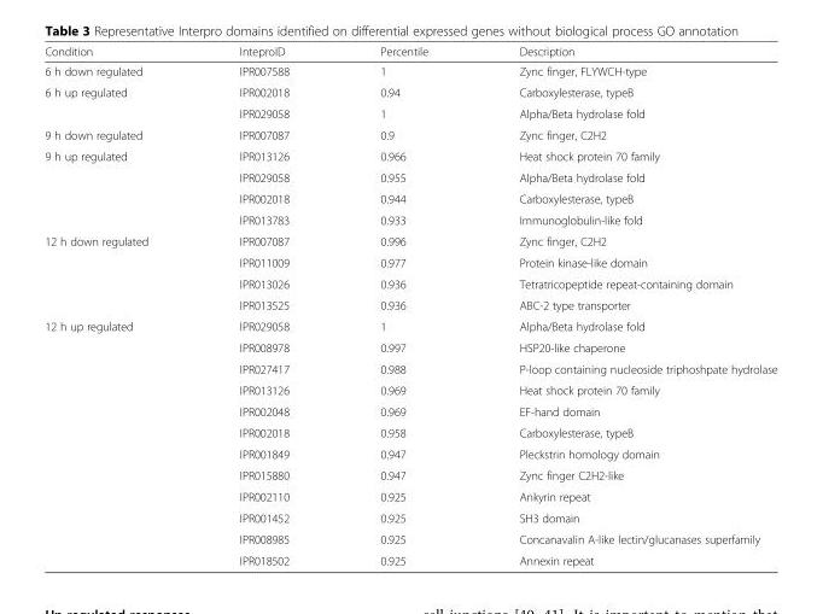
<table><thead><tr><td>Condition</td><td>InteproID</td><td>Percentile</td><td>Description</td></tr></thead><tbody><tr><td>6 h down regulated</td><td>IPR007588</td><td>1</td><td>Zync finger, FLYWCH-type</td></tr><tr><td rowspan="2">6 h up regulated</td><td>IPR002018</td><td>0.94</td><td>Carboxylesterase, typeB</td></tr><tr><td>IPR029058</td><td>1</td><td>Alpha/Beta hydrolase fold</td></tr><tr><td>9 h down regulated</td><td>IPR007087</td><td>0.9</td><td>Zync finger, C2H2</td></tr><tr><td rowspan="4">9 h up regulated</td><td>IPR013126</td><td>0.966</td><td>Heat shock protein 70 family</td></tr><tr><td>IPR029058</td><td>0.955</td><td>Alpha/Beta hydrolase fold</td></tr><tr><td>IPR002018</td><td>0.944</td><td>Carboxylesterase, typeB</td></tr><tr><td>IPR013783</td><td>0.933</td><td>Immunoglobulin-like fold</td></tr><tr><td rowspan="4">12 h down regulated</td><td>IPR007087</td><td>0.996</td><td>Zync finger, C2H2</td></tr><tr><td>IPR011009</td><td>0.977</td><td>Protein kinase-like domain</td></tr><tr><td>IPR013026</td><td>0.936</td><td>Tetratricopeptide repeat-containing domain</td></tr><tr><td>IPR013525</td><td>0.936</td><td>ABC-2 type transporter</td></tr><tr><td rowspan="12">12 h up regulated</td><td>IPR029058</td><td>1</td><td>Alpha/Beta hydrolase fold</td></tr><tr><td>IPR008978</td><td>0.997</td><td>HSP20-like chaperone</td></tr><tr><td>IPR027417</td><td>0.988</td><td>P-loop containing nucleoside triphoshpate hydrolase</td></tr><tr><td>IPR013126</td><td>0.969</td><td>Heat shock protein 70 family</td></tr><tr><td>IPR002048</td><td>0.969</td><td>EF-hand domain</td></tr><tr><td>IPR002018</td><td>0.958</td><td>Carboxylesterase, typeB</td></tr><tr><td>IPR001849</td><td>0.947</td><td>Pleckstrin homology domain</td></tr><tr><td>IPR015880</td><td>0.947</td><td>Zync finger C2H2-like</td></tr><tr><td>IPR002110</td><td>0.925</td><td>Ankyrin repeat</td></tr><tr><td>IPR001452</td><td>0.925</td><td>SH3 domain</td></tr><tr><td>IPR008985</td><td>0.925</td><td>Concanavalin A-like lectin/glucanases superfamily</td></tr><tr><td>IPR018502</td><td>0.925</td><td>Annexin repeat</td></tr></tbody></table>